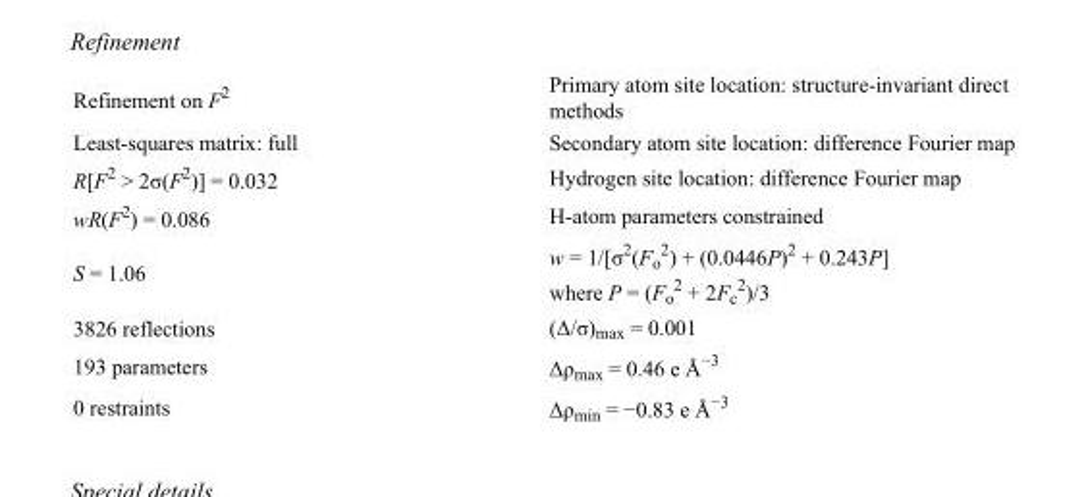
<table><tbody><tr><td>Refinement on F<sup>2</sup></td><td>Primary atom site location: structure-invariant direct methods</td></tr><tr><td>Least-squares matrix: full</td><td>Secondary atom site location: difference Fourier map</td></tr><tr><td>R[F<sup>2</sup> &gt; 2σ(F<sup>2</sup>)] = 0.032</td><td>Hydrogen site location: difference Fourier map</td></tr><tr><td>wR(F<sup>2</sup>) = 0.086</td><td>H-atom parameters constrained</td></tr><tr><td>S = 1.06</td><td>w = 1/[σ<sup>2</sup>(F<sub>o</sub> <sup>2</sup>) + (0.0446P)<sup>2</sup> + 0.243P] where P = (F<sub>o</sub> <sup>2</sup> + 2F<sub>c</sub> <sup>2</sup>)/3</td></tr><tr><td>3826 reflections</td><td>(Δ/σ)<sub>max</sub> = 0.001</td></tr><tr><td>193 parameters</td><td>Δρ<sub>max</sub> = 0.46 e Å<sup>−3</sup></td></tr><tr><td>0 restraints</td><td>Δρ<sub>min</sub> = −0.83 e Å<sup>−3</sup></td></tr></tbody></table>